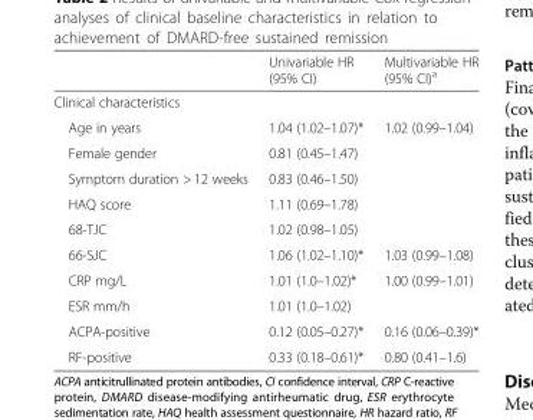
<table><thead><tr><td></td><td>Univariable HR (95% CI)</td><td>Multivariable HR (95% CI)<sup>a</sup></td></tr></thead><tbody><tr><td colspan="3">Clinical characteristics</td></tr><tr><td>Age in years</td><td>1.04 (1.02–1.07)*</td><td>1.02 (0.99–1.04)</td></tr><tr><td>Female gender</td><td>0.81 (0.45–1.47)</td><td></td></tr><tr><td>Symptom duration &gt; 12 weeks</td><td>0.83 (0.46–1.50)</td><td></td></tr><tr><td>HAQ score</td><td>1.11 (0.69–1.78)</td><td></td></tr><tr><td>68-TJC</td><td>1.02 (0.98–1.05)</td><td></td></tr><tr><td>66-SJC</td><td>1.06 (1.02–1.10)*</td><td>1.03 (0.99–1.08)</td></tr><tr><td>CRP mg/L</td><td>1.01 (1.0–1.02)*</td><td>1.00 (0.99–1.01)</td></tr><tr><td>ESR mm/h</td><td>1.01 (1.0–1.02)</td><td></td></tr><tr><td>ACPA-positive</td><td>0.12 (0.05–0.27)*</td><td>0.16 (0.06–0.39)*</td></tr><tr><td>RF-positive</td><td>0.33 (0.18–0.61)*</td><td>0.80 (0.41–1.6)</td></tr></tbody></table>